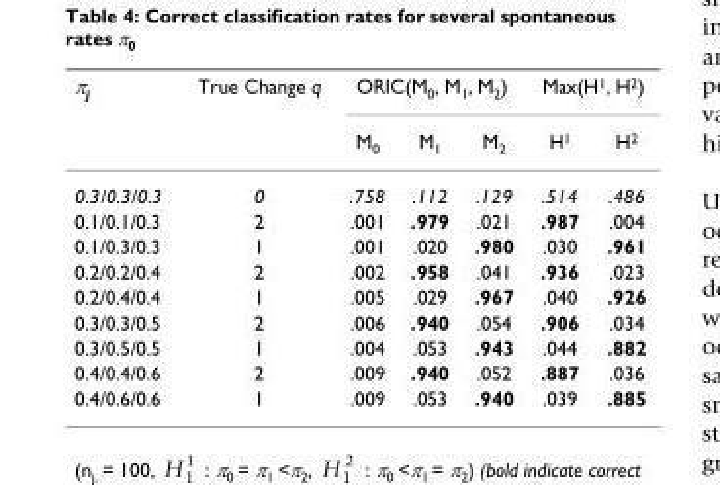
<table><thead><tr><td rowspan="2">π<sub>j</sub></td><td rowspan="2">True Change q</td><td colspan="3">ORIC(M<sub>0</sub>, M<sub>1</sub>, M<sub>2</sub>)</td><td colspan="2">Max(H<sup>1</sup>, H<sup>2</sup>)</td></tr><tr><td>M<sub>0</sub></td><td>M<sub>1</sub></td><td>M<sub>2</sub></td><td>H<sup>1</sup></td><td>H<sup>2</sup></td></tr></thead><tbody><tr><td>0.3/0.3/0.3</td><td>0</td><td>.758</td><td>.112</td><td>.129</td><td>.514</td><td>.486</td></tr><tr><td>0.1/0.1/0.3</td><td>2</td><td>.001</td><td>.979</td><td>.021</td><td>.987</td><td>.004</td></tr><tr><td>0.1/0.3/0.3</td><td>1</td><td>.001</td><td>.020</td><td>.980</td><td>.030</td><td>.961</td></tr><tr><td>0.2/0.2/0.4</td><td>2</td><td>.002</td><td>.958</td><td>.041</td><td>.936</td><td>.023</td></tr><tr><td>0.2/0.4/0.4</td><td>1</td><td>.005</td><td>.029</td><td>.967</td><td>.040</td><td>.926</td></tr><tr><td>0.3/0.3/0.5</td><td>2</td><td>.006</td><td>.940</td><td>.054</td><td>.906</td><td>.034</td></tr><tr><td>0.3/0.5/0.5</td><td>1</td><td>.004</td><td>.053</td><td>.943</td><td>.044</td><td>.882</td></tr><tr><td>0.4/0.4/0.6</td><td>2</td><td>.009</td><td>.940</td><td>.052</td><td>.887</td><td>.036</td></tr><tr><td>0.4/0.6/0.6</td><td>1</td><td>.009</td><td>.053</td><td>.940</td><td>.039</td><td>.885</td></tr></tbody></table>